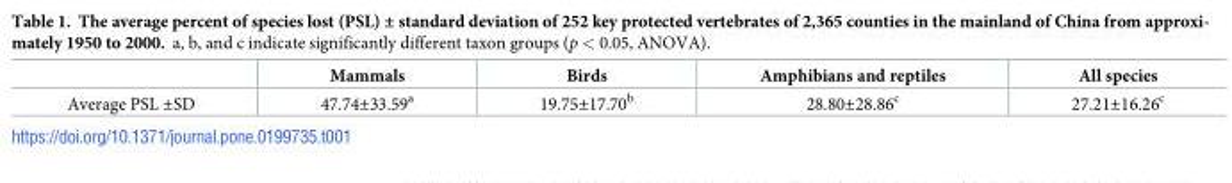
<table><thead><tr><td></td><td>Mammals</td><td>Birds</td><td>Amphibians and reptiles</td><td>All species</td></tr></thead><tbody><tr><td>Average PSL ±SD</td><td>47.74±33.59<sup>a</sup></td><td>19.75±17.70<sup>b</sup></td><td>28.80±28.86<sup>c</sup></td><td>27.21±16.26<sup>c</sup></td></tr></tbody></table>